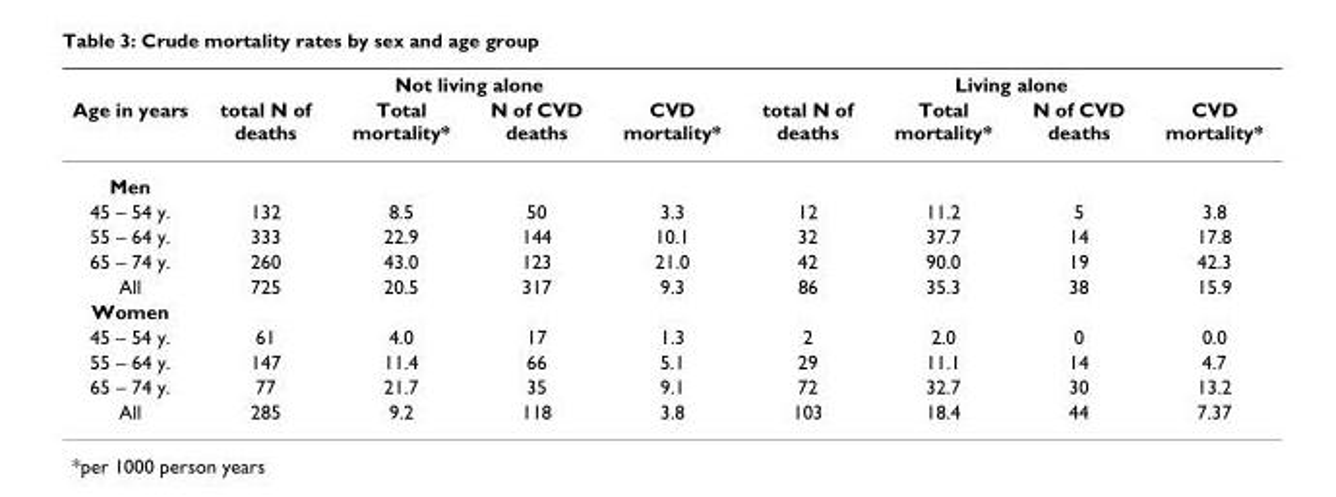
<table><thead><tr><td rowspan="2">Age in years</td><td colspan="4">Not living alone</td><td colspan="4">Living alone</td></tr><tr><td>total N of deaths</td><td>Total mortality*</td><td>N of CVD deaths</td><td>CVD mortality*</td><td>total N of deaths</td><td>Total mortality*</td><td>N of CVD deaths</td><td>CVD mortality*</td></tr></thead><tbody><tr><td colspan="9">Men</td></tr><tr><td>45 – 54 y.</td><td>132</td><td>8.5</td><td>50</td><td>3.3</td><td>12</td><td>11.2</td><td>5</td><td>3.8</td></tr><tr><td>55 – 64 y.</td><td>333</td><td>22.9</td><td>144</td><td>10.1</td><td>32</td><td>37.7</td><td>14</td><td>17.8</td></tr><tr><td>65 – 74 y.</td><td>260</td><td>43.0</td><td>123</td><td>21.0</td><td>42</td><td>90.0</td><td>19</td><td>42.3</td></tr><tr><td>All</td><td>725</td><td>20.5</td><td>317</td><td>9.3</td><td>86</td><td>35.3</td><td>38</td><td>15.9</td></tr><tr><td colspan="9">Women</td></tr><tr><td>45 – 54 y.</td><td>61</td><td>4.0</td><td>17</td><td>1.3</td><td>2</td><td>2.0</td><td>0</td><td>0.0</td></tr><tr><td>55 – 64 y.</td><td>147</td><td>11.4</td><td>66</td><td>5.1</td><td>29</td><td>11.1</td><td>14</td><td>4.7</td></tr><tr><td>65 – 74 y.</td><td>77</td><td>21.7</td><td>35</td><td>9.1</td><td>72</td><td>32.7</td><td>30</td><td>13.2</td></tr><tr><td>All</td><td>285</td><td>9.2</td><td>118</td><td>3.8</td><td>103</td><td>18.4</td><td>44</td><td>7.37</td></tr></tbody></table>